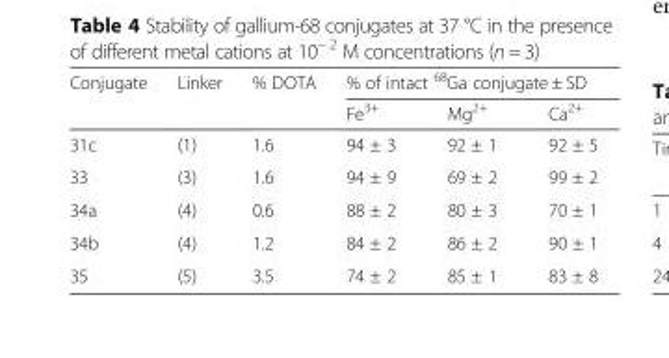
<table><thead><tr><td rowspan="2">Conjugate</td><td rowspan="2">Linker</td><td rowspan="2">% DOTA</td><td colspan="3">% of intact <sup>68</sup>Ga conjugate ± SD</td></tr><tr><td>Fe<sup>3+</sup></td><td>Mg<sup>2+</sup></td><td>Ca<sup>2+</sup></td></tr></thead><tbody><tr><td>31c</td><td>(1)</td><td>1.6</td><td>94 ± 3</td><td>92 ± 1</td><td>92 ± 5</td></tr><tr><td>33</td><td>(3)</td><td>1.6</td><td>94 ± 9</td><td>69 ± 2</td><td>99 ± 2</td></tr><tr><td>34a</td><td>(4)</td><td>0.6</td><td>88 ± 2</td><td>80 ± 3</td><td>70 ± 1</td></tr><tr><td>34b</td><td>(4)</td><td>1.2</td><td>84 ± 2</td><td>86 ± 2</td><td>90 ± 1</td></tr><tr><td>35</td><td>(5)</td><td>3.5</td><td>74 ± 2</td><td>85 ± 1</td><td>83 ± 8</td></tr></tbody></table>